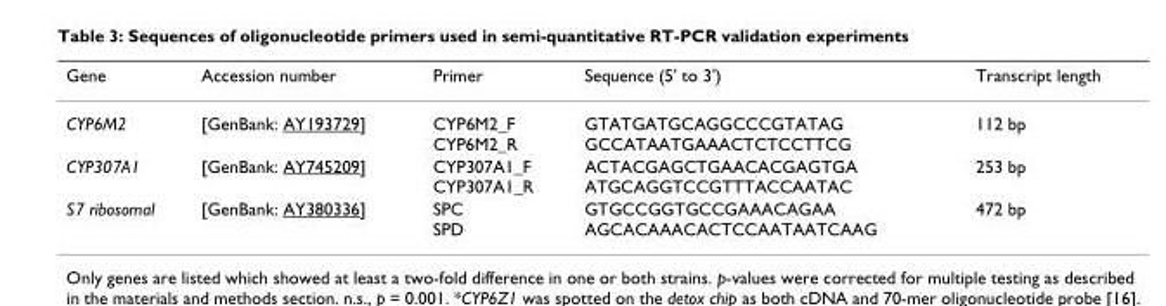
<table><thead><tr><td>Gene</td><td>Accession number</td><td>Primer</td><td>Sequence (5&#x27; to 3&#x27;)</td><td>Transcript length</td></tr></thead><tbody><tr><td>CYP6M2</td><td>[GenBank: AY193729]</td><td>CYP6M2_F CYP6M2_R</td><td>GTATGATGCAGGCCCGTATAG GCCATAATGAAACTCTCCTTCG</td><td>112 bp</td></tr><tr><td>CYP307A1</td><td>[GenBank: AY745209]</td><td>CYP307A1_F CYP307A1_R</td><td>ACTACGAGCTGAACACGAGTGA ATGCAGGTCCGTTTACCAATAC</td><td>253 bp</td></tr><tr><td>S7 ribosomal</td><td>[GenBank: AY380336]</td><td>SPC SPD</td><td>GTGCCGGTGCCGAAACAGAA AGCACAAACACTCCAATAATCAAG</td><td>472 bp</td></tr></tbody></table>